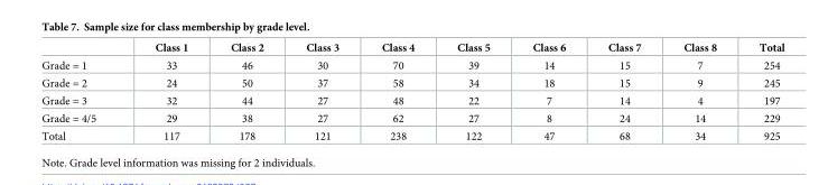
<table><thead><tr><td></td><td>Class 1</td><td>Class 2</td><td>Class 3</td><td>Class 4</td><td>Class 5</td><td>Class 6</td><td>Class 7</td><td>Class 8</td><td>Total</td></tr></thead><tbody><tr><td>Grade = 1</td><td>33</td><td>46</td><td>30</td><td>70</td><td>39</td><td>14</td><td>15</td><td>7</td><td>254</td></tr><tr><td>Grade = 2</td><td>24</td><td>50</td><td>37</td><td>58</td><td>34</td><td>18</td><td>15</td><td>9</td><td>245</td></tr><tr><td>Grade = 3</td><td>32</td><td>44</td><td>27</td><td>48</td><td>22</td><td>7</td><td>14</td><td>4</td><td>197</td></tr><tr><td>Grade = 4/5</td><td>29</td><td>38</td><td>27</td><td>62</td><td>27</td><td>8</td><td>24</td><td>14</td><td>229</td></tr><tr><td>Total</td><td>117</td><td>178</td><td>121</td><td>238</td><td>122</td><td>47</td><td>68</td><td>34</td><td>925</td></tr></tbody></table>